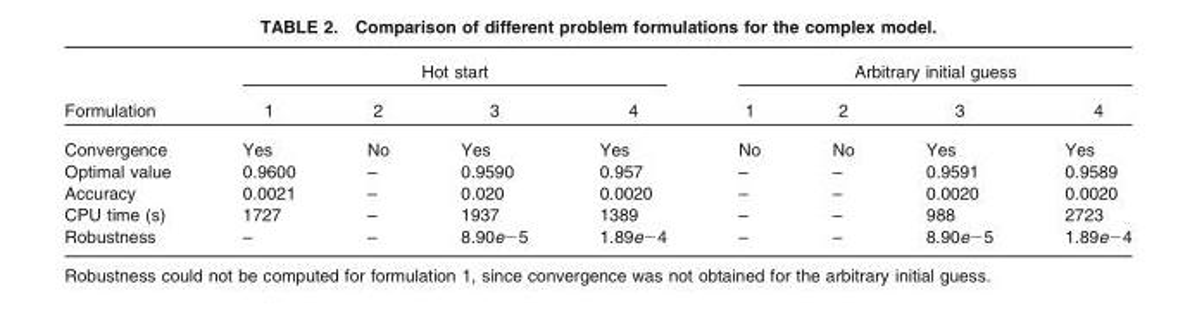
<table><thead><tr><td rowspan="2">Formulation</td><td colspan="4">Hot start</td><td colspan="4">Arbitrary initial guess</td></tr><tr><td>1</td><td>2</td><td>3</td><td>4</td><td>1</td><td>2</td><td>3</td><td>4</td></tr></thead><tbody><tr><td>Convergence</td><td>Yes</td><td>No</td><td>Yes</td><td>Yes</td><td>No</td><td>No</td><td>Yes</td><td>Yes</td></tr><tr><td>Optimal value</td><td>0.9600</td><td>–</td><td>0.9590</td><td>0.957</td><td>–</td><td>–</td><td>0.9591</td><td>0.9589</td></tr><tr><td>Accuracy</td><td>0.0021</td><td>–</td><td>0.020</td><td>0.0020</td><td>–</td><td>–</td><td>0.0020</td><td>0.0020</td></tr><tr><td>CPU time (s)</td><td>1727</td><td>–</td><td>1937</td><td>1389</td><td>–</td><td>–</td><td>988</td><td>2723</td></tr><tr><td>Robustness</td><td>–</td><td>–</td><td>8.90e−5</td><td>1.89e−4</td><td>–</td><td>–</td><td>8.90e−5</td><td>1.89e−4</td></tr></tbody></table>